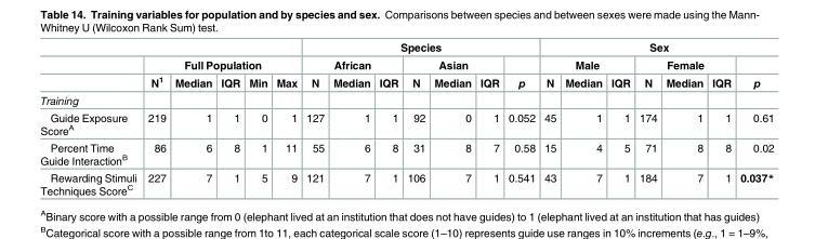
<table><thead><tr><td rowspan="3"></td><td></td><td></td><td></td><td></td><td></td><td colspan="7">Species</td><td colspan="7">Sex</td></tr><tr><td colspan="5">Full Population</td><td colspan="3">African</td><td colspan="3">Asian</td><td rowspan="2">p</td><td colspan="3">Male</td><td colspan="3">Female</td><td rowspan="2">p</td></tr><tr><td>N<sup>1</sup></td><td>Median</td><td>IQR</td><td>Min</td><td>Max</td><td>N</td><td>Median</td><td>IQR</td><td>N</td><td>Median</td><td>IQR</td><td>N</td><td>Median</td><td>IQR</td><td>N</td><td>Median</td><td>IQR</td></tr></thead><tbody><tr><td colspan="20">Training</td></tr><tr><td>Guide Exposure Score<sup>A</sup></td><td>219</td><td>1</td><td>1</td><td>0</td><td>1</td><td>127</td><td>1</td><td>1</td><td>92</td><td>0</td><td>1</td><td>0.052</td><td>45</td><td>1</td><td>1</td><td>174</td><td>1</td><td>1</td><td>0.61</td></tr><tr><td>Percent Time Guide Interaction<sup>B</sup></td><td>86</td><td>6</td><td>8</td><td>1</td><td>11</td><td>55</td><td>6</td><td>8</td><td>31</td><td>8</td><td>7</td><td>0.58</td><td>15</td><td>4</td><td>5</td><td>71</td><td>8</td><td>8</td><td>0.02</td></tr><tr><td>Rewarding Stimuli Techniques Score<sup>C</sup></td><td>227</td><td>7</td><td>1</td><td>5</td><td>9</td><td>121</td><td>7</td><td>1</td><td>106</td><td>7</td><td>1</td><td>0.541</td><td>43</td><td>7</td><td>1</td><td>184</td><td>7</td><td>1</td><td>0.037*</td></tr></tbody></table>